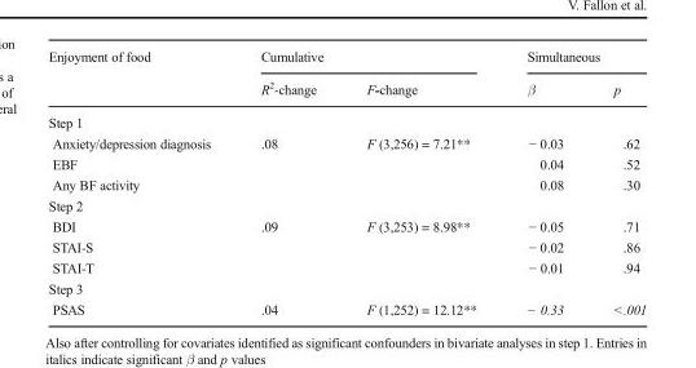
<table><thead><tr><td rowspan="2">Enjoyment of food</td><td colspan="2">Cumulative</td><td colspan="2">Simultaneous</td></tr><tr><td>R<sup>2</sup>-change</td><td>F-change</td><td>β</td><td>p</td></tr></thead><tbody><tr><td colspan="5">Step 1</td></tr><tr><td>Anxiety/depression diagnosis</td><td rowspan="3">.08</td><td rowspan="3">F (3,256) = 7.21**</td><td>− 0.03</td><td>.62</td></tr><tr><td>EBF</td><td>0.04</td><td>.52</td></tr><tr><td>Any BF activity</td><td>0.08</td><td>.30</td></tr><tr><td colspan="5">Step 2</td></tr><tr><td>BDI</td><td rowspan="3">.09</td><td rowspan="3">F (3,253) = 8.98**</td><td>− 0.05</td><td>.71</td></tr><tr><td>STAI-S</td><td>− 0.02</td><td>.86</td></tr><tr><td>STAI-T</td><td>− 0.01</td><td>.94</td></tr><tr><td colspan="5">Step 3</td></tr><tr><td>PSAS</td><td>.04</td><td>F (1,252) = 12.12**</td><td>− 0.33</td><td>&lt;.001</td></tr></tbody></table>